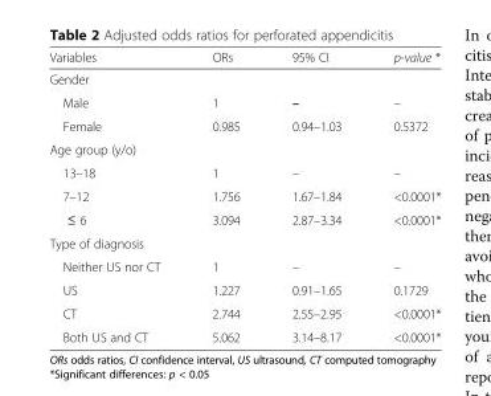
<table><thead><tr><td>Variables</td><td>ORs</td><td>95% CI</td><td>p-value *</td></tr></thead><tbody><tr><td colspan="4">Gender</td></tr><tr><td>Male</td><td>1</td><td>–</td><td>–</td></tr><tr><td>Female</td><td>0.985</td><td>0.94–1.03</td><td>0.5372</td></tr><tr><td colspan="4">Age group (y/o)</td></tr><tr><td>13–18</td><td>1</td><td>–</td><td>–</td></tr><tr><td>7–12</td><td>1.756</td><td>1.67–1.84</td><td>&lt;0.0001*</td></tr><tr><td>≤ 6</td><td>3.094</td><td>2.87–3.34</td><td>&lt;0.0001*</td></tr><tr><td colspan="4">Type of diagnosis</td></tr><tr><td>Neither US nor CT</td><td>1</td><td>–</td><td>–</td></tr><tr><td>US</td><td>1.227</td><td>0.91–1.65</td><td>0.1729</td></tr><tr><td>CT</td><td>2.744</td><td>2.55–2.95</td><td>&lt;0.0001*</td></tr><tr><td>Both US and CT</td><td>5.062</td><td>3.14–8.17</td><td>&lt;0.0001*</td></tr></tbody></table>